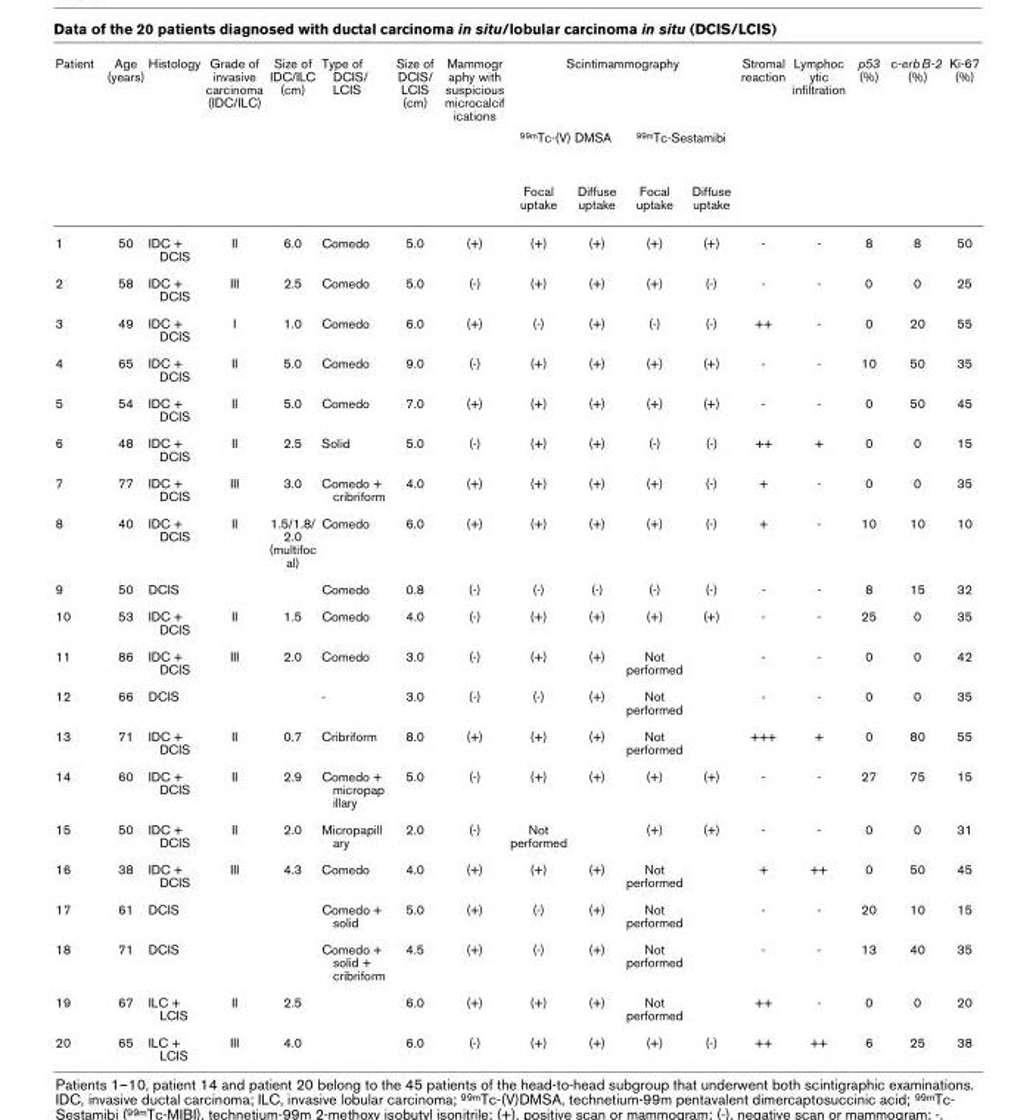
<table><thead><tr><td rowspan="3">Patient</td><td rowspan="3">Age (years)</td><td rowspan="3">Histology</td><td rowspan="3">Grade of invasive carcinoma (IDC/ILC)</td><td rowspan="3">Size of IDC/ILC (cm)</td><td rowspan="3">Type of DCIS/ LCIS</td><td rowspan="3">Size of DCIS/ LCIS (cm)</td><td rowspan="3">Mammogr aphy with suspicious microcalcif ications</td><td colspan="4">Scintimammography</td><td rowspan="3">Stromal reaction</td><td rowspan="3">Lymphoc ytic infiltration</td><td rowspan="3">p53 (%)</td><td rowspan="3">c-erb B-2 (%)</td><td rowspan="3">Ki-67 (%)</td></tr><tr><td colspan="2">99mTc-(V) DMSA</td><td colspan="2">99mTc-Sestamibi</td></tr><tr><td>Focal uptake</td><td>Diffuse uptake</td><td>Focal uptake</td><td>Diffuse uptake</td></tr></thead><tbody><tr><td>1</td><td>50</td><td>IDC + DCIS</td><td>II</td><td>6.0</td><td>Comedo</td><td>5.0</td><td>(+)</td><td>(+)</td><td>(+)</td><td>(+)</td><td>(+)</td><td>-</td><td>-</td><td>8</td><td>8</td><td>50</td></tr><tr><td>2</td><td>58</td><td>IDC + DCIS</td><td>III</td><td>2.5</td><td>Comedo</td><td>5.0</td><td>(-)</td><td>(+)</td><td>(+)</td><td>(+)</td><td>(-)</td><td>-</td><td>-</td><td>0</td><td>0</td><td>25</td></tr><tr><td>3</td><td>49</td><td>IDC + DCIS</td><td>I</td><td>1.0</td><td>Comedo</td><td>6.0</td><td>(+)</td><td>(-)</td><td>(+)</td><td>(-)</td><td>(-)</td><td>++</td><td>-</td><td>0</td><td>20</td><td>55</td></tr><tr><td>4</td><td>65</td><td>IDC + DCIS</td><td>II</td><td>5.0</td><td>Comedo</td><td>9.0</td><td>(-)</td><td>(+)</td><td>(+)</td><td>(+)</td><td>(+)</td><td>-</td><td>-</td><td>10</td><td>50</td><td>35</td></tr><tr><td>5</td><td>54</td><td>IDC + DCIS</td><td>II</td><td>5.0</td><td>Comedo</td><td>7.0</td><td>(+)</td><td>(+)</td><td>(+)</td><td>(+)</td><td>(+)</td><td>-</td><td>-</td><td>0</td><td>50</td><td>45</td></tr><tr><td>6</td><td>48</td><td>IDC + DCIS</td><td>II</td><td>2.5</td><td>Solid</td><td>5.0</td><td>(-)</td><td>(+)</td><td>(+)</td><td>(-)</td><td>(-)</td><td>++</td><td>+</td><td>0</td><td>0</td><td>15</td></tr><tr><td>7</td><td>77</td><td>IDC + DCIS</td><td>III</td><td>3.0</td><td>Comedo + cribriform</td><td>4.0</td><td>(+)</td><td>(+)</td><td>(+)</td><td>(+)</td><td>(-)</td><td>+</td><td>-</td><td>0</td><td>0</td><td>35</td></tr><tr><td>8</td><td>40</td><td>IDC + DCIS</td><td>II</td><td>1.5/1.8/ 2.0 (multifoc al)</td><td>Comedo</td><td>6.0</td><td>(+)</td><td>(+)</td><td>(+)</td><td>(+)</td><td>(-)</td><td>+</td><td>-</td><td>10</td><td>10</td><td>10</td></tr><tr><td>9</td><td>50</td><td>DCIS</td><td></td><td></td><td>Comedo</td><td>0.8</td><td>(-)</td><td>(-)</td><td>(-)</td><td>(-)</td><td>(-)</td><td>-</td><td>-</td><td>8</td><td>15</td><td>32</td></tr><tr><td>10</td><td>53</td><td>IDC + DCIS</td><td>II</td><td>1.5</td><td>Comedo</td><td>4.0</td><td>(-)</td><td>(+)</td><td>(+)</td><td>(+)</td><td>(+)</td><td>-</td><td>-</td><td>25</td><td>0</td><td>35</td></tr><tr><td>11</td><td>86</td><td>IDC + DCIS</td><td>III</td><td>2.0</td><td>Comedo</td><td>3.0</td><td>(-)</td><td>(+)</td><td>(+)</td><td>Not performed</td><td></td><td>-</td><td>-</td><td>0</td><td>0</td><td>42</td></tr><tr><td>12</td><td>66</td><td>DCIS</td><td></td><td></td><td>-</td><td>3.0</td><td>(-)</td><td>(-)</td><td>(+)</td><td>Not performed</td><td></td><td>-</td><td>-</td><td>0</td><td>0</td><td>35</td></tr><tr><td>13</td><td>71</td><td>IDC + DCIS</td><td>II</td><td>0.7</td><td>Cribriform</td><td>8.0</td><td>(+)</td><td>(+)</td><td>(+)</td><td>Not performed</td><td></td><td>+++</td><td>+</td><td>0</td><td>80</td><td>55</td></tr><tr><td>14</td><td>60</td><td>IDC + DCIS</td><td>II</td><td>2.9</td><td>Comedo + micropap illary</td><td>5.0</td><td>(-)</td><td>(+)</td><td>(+)</td><td>(+)</td><td>(+)</td><td>-</td><td>-</td><td>27</td><td>75</td><td>15</td></tr><tr><td>15</td><td>50</td><td>IDC + DCIS</td><td>II</td><td>2.0</td><td>Micropapill ary</td><td>2.0</td><td>(-)</td><td>Not performed</td><td></td><td>(+)</td><td>(+)</td><td>-</td><td>-</td><td>0</td><td>0</td><td>31</td></tr><tr><td>16</td><td>38</td><td>IDC + DCIS</td><td>III</td><td>4.3</td><td>Comedo</td><td>4.0</td><td>(+)</td><td>(+)</td><td>(+)</td><td>Not performed</td><td></td><td>+</td><td>++</td><td>0</td><td>50</td><td>45</td></tr><tr><td>17</td><td>61</td><td>DCIS</td><td></td><td></td><td>Comedo + solid</td><td>5.0</td><td>(+)</td><td>(-)</td><td>(+)</td><td>Not performed</td><td></td><td>-</td><td>-</td><td>20</td><td>10</td><td>15</td></tr><tr><td>18</td><td>71</td><td>DCIS</td><td></td><td></td><td>Comedo + solid + cribriform</td><td>4.5</td><td>(+)</td><td>(-)</td><td>(+)</td><td>Not performed</td><td></td><td>-</td><td>-</td><td>13</td><td>40</td><td>35</td></tr><tr><td>19</td><td>67</td><td>ILC + LCIS</td><td>II</td><td>2.5</td><td></td><td>6.0</td><td>(+)</td><td>(+)</td><td>(+)</td><td>Not performed</td><td></td><td>++</td><td>-</td><td>0</td><td>0</td><td>20</td></tr><tr><td>20</td><td>65</td><td>ILC + LCIS</td><td>III</td><td>4.0</td><td></td><td>6.0</td><td>(-)</td><td>(+)</td><td>(+)</td><td>(+)</td><td>(-)</td><td>++</td><td>++</td><td>6</td><td>25</td><td>38</td></tr></tbody></table>